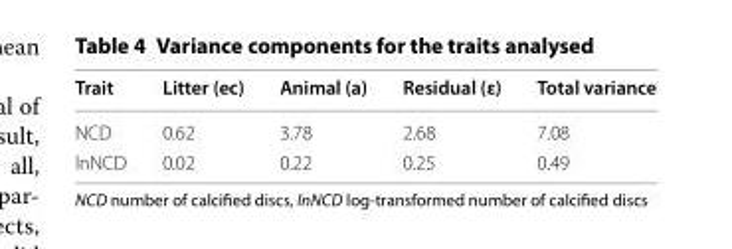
<table><thead><tr><td>Trait</td><td>Litter (ec)</td><td>Animal (a)</td><td>Residual (ε)</td><td>Total variance</td></tr></thead><tbody><tr><td>NCD</td><td>0.62</td><td>3.78</td><td>2.68</td><td>7.08</td></tr><tr><td>lnNCD</td><td>0.02</td><td>0.22</td><td>0.25</td><td>0.49</td></tr></tbody></table>